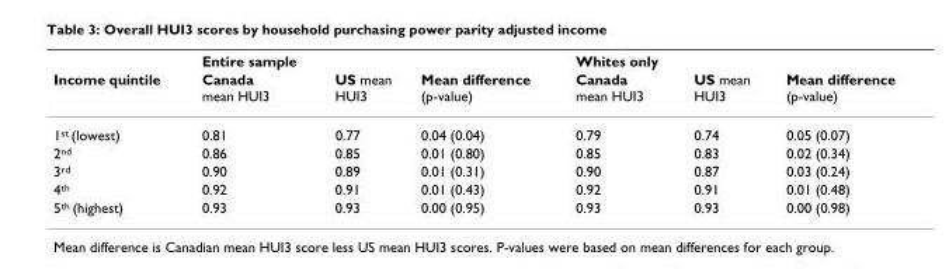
<table><thead><tr><td rowspan="2">Income quintile</td><td rowspan="2">Entire sample Canada mean HUI3</td><td rowspan="2">US mean HUI3</td><td rowspan="2">Mean difference (p-value)</td><td rowspan="2">Whites only Canada mean HUI3</td><td rowspan="2">US mean HUI3</td><td rowspan="2">Mean difference (p-value)</td></tr><tr></tr></thead><tbody><tr><td>1<sup>st</sup> (lowest)</td><td>0.81</td><td>0.77</td><td>0.04 (0.04)</td><td>0.79</td><td>0.74</td><td>0.05 (0.07)</td></tr><tr><td>2<sup>nd</sup></td><td>0.86</td><td>0.85</td><td>0.01 (0.80)</td><td>0.85</td><td>0.83</td><td>0.02 (0.34)</td></tr><tr><td>3<sup>rd</sup></td><td>0.90</td><td>0.89</td><td>0.01 (0.31)</td><td>0.90</td><td>0.87</td><td>0.03 (0.24)</td></tr><tr><td>4<sup>th</sup></td><td>0.92</td><td>0.91</td><td>0.01 (0.43)</td><td>0.92</td><td>0.91</td><td>0.01 (0.48)</td></tr><tr><td>5<sup>th</sup> (highest)</td><td>0.93</td><td>0.93</td><td>0.00 (0.95)</td><td>0.93</td><td>0.93</td><td>0.00 (0.98)</td></tr></tbody></table>